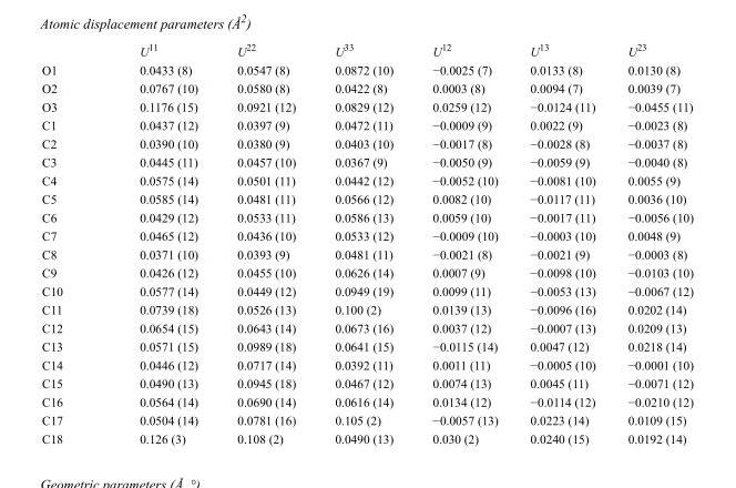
<table><thead><tr><td></td><td>U<sup>11</sup></td><td>U<sup>22</sup></td><td>U<sup>33</sup></td><td>U<sup>12</sup></td><td>U<sup>13</sup></td><td>U<sup>23</sup></td></tr></thead><tbody><tr><td>O1</td><td>0.0433 (8)</td><td>0.0547 (8)</td><td>0.0872 (10)</td><td>−0.0025 (7)</td><td>0.0133 (8)</td><td>0.0130 (8)</td></tr><tr><td>O2</td><td>0.0767 (10)</td><td>0.0580 (8)</td><td>0.0422 (8)</td><td>0.0003 (8)</td><td>0.0094 (7)</td><td>0.0039 (7)</td></tr><tr><td>O3</td><td>0.1176 (15)</td><td>0.0921 (12)</td><td>0.0829 (12)</td><td>0.0259 (12)</td><td>−0.0124 (11)</td><td>−0.0455 (11)</td></tr><tr><td>C1</td><td>0.0437 (12)</td><td>0.0397 (9)</td><td>0.0472 (11)</td><td>−0.0009 (9)</td><td>0.0022 (9)</td><td>−0.0023 (8)</td></tr><tr><td>C2</td><td>0.0390 (10)</td><td>0.0380 (9)</td><td>0.0403 (10)</td><td>−0.0017 (8)</td><td>−0.0028 (8)</td><td>−0.0037 (8)</td></tr><tr><td>C3</td><td>0.0445 (11)</td><td>0.0457 (10)</td><td>0.0367 (9)</td><td>−0.0050 (9)</td><td>−0.0059 (9)</td><td>−0.0040 (8)</td></tr><tr><td>C4</td><td>0.0575 (14)</td><td>0.0501 (11)</td><td>0.0442 (12)</td><td>−0.0052 (10)</td><td>−0.0081 (10)</td><td>0.0055 (9)</td></tr><tr><td>C5</td><td>0.0585 (14)</td><td>0.0481 (11)</td><td>0.0566 (12)</td><td>0.0082 (10)</td><td>−0.0117 (11)</td><td>0.0036 (10)</td></tr><tr><td>C6</td><td>0.0429 (12)</td><td>0.0533 (11)</td><td>0.0586 (13)</td><td>0.0059 (10)</td><td>−0.0017 (11)</td><td>−0.0056 (10)</td></tr><tr><td>C7</td><td>0.0465 (12)</td><td>0.0436 (10)</td><td>0.0533 (12)</td><td>−0.0009 (10)</td><td>−0.0003 (10)</td><td>0.0048 (9)</td></tr><tr><td>C8</td><td>0.0371 (10)</td><td>0.0393 (9)</td><td>0.0481 (11)</td><td>−0.0021 (8)</td><td>−0.0021 (9)</td><td>−0.0003 (8)</td></tr><tr><td>C9</td><td>0.0426 (12)</td><td>0.0455 (10)</td><td>0.0626 (14)</td><td>0.0007 (9)</td><td>−0.0098 (10)</td><td>−0.0103 (10)</td></tr><tr><td>C10</td><td>0.0577 (14)</td><td>0.0449 (12)</td><td>0.0949 (19)</td><td>0.0099 (11)</td><td>−0.0053 (13)</td><td>−0.0067 (12)</td></tr><tr><td>C11</td><td>0.0739 (18)</td><td>0.0526 (13)</td><td>0.100 (2)</td><td>0.0139 (13)</td><td>−0.0096 (16)</td><td>0.0202 (14)</td></tr><tr><td>C12</td><td>0.0654 (15)</td><td>0.0643 (14)</td><td>0.0673 (16)</td><td>0.0037 (12)</td><td>−0.0007 (13)</td><td>0.0209 (13)</td></tr><tr><td>C13</td><td>0.0571 (15)</td><td>0.0989 (18)</td><td>0.0641 (15)</td><td>−0.0115 (14)</td><td>0.0047 (12)</td><td>0.0218 (14)</td></tr><tr><td>C14</td><td>0.0446 (12)</td><td>0.0717 (14)</td><td>0.0392 (11)</td><td>0.0011 (11)</td><td>−0.0005 (10)</td><td>−0.0001 (10)</td></tr><tr><td>C15</td><td>0.0490 (13)</td><td>0.0945 (18)</td><td>0.0467 (12)</td><td>0.0074 (13)</td><td>0.0045 (11)</td><td>−0.0071 (12)</td></tr><tr><td>C16</td><td>0.0564 (14)</td><td>0.0690 (14)</td><td>0.0616 (14)</td><td>0.0134 (12)</td><td>−0.0114 (12)</td><td>−0.0210 (12)</td></tr><tr><td>C17</td><td>0.0504 (14)</td><td>0.0781 (16)</td><td>0.105 (2)</td><td>−0.0057 (13)</td><td>0.0223 (14)</td><td>0.0109 (15)</td></tr><tr><td>C18</td><td>0.126 (3)</td><td>0.108 (2)</td><td>0.0490 (13)</td><td>0.030 (2)</td><td>0.0240 (15)</td><td>0.0192 (14)</td></tr></tbody></table>